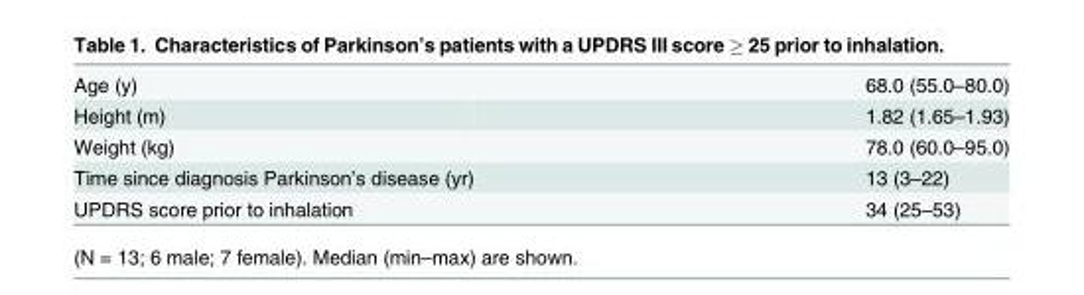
<table><tbody><tr><td>Age (y)</td><td>68.0 (55.0–80.0)</td></tr><tr><td>Height (m)</td><td>1.82 (1.65–1.93)</td></tr><tr><td>Weight (kg)</td><td>78.0 (60.0–95.0)</td></tr><tr><td>Time since diagnosis Parkinson’s disease (yr)</td><td>13 (3–22)</td></tr><tr><td>UPDRS score prior to inhalation</td><td>34 (25–53)</td></tr></tbody></table>